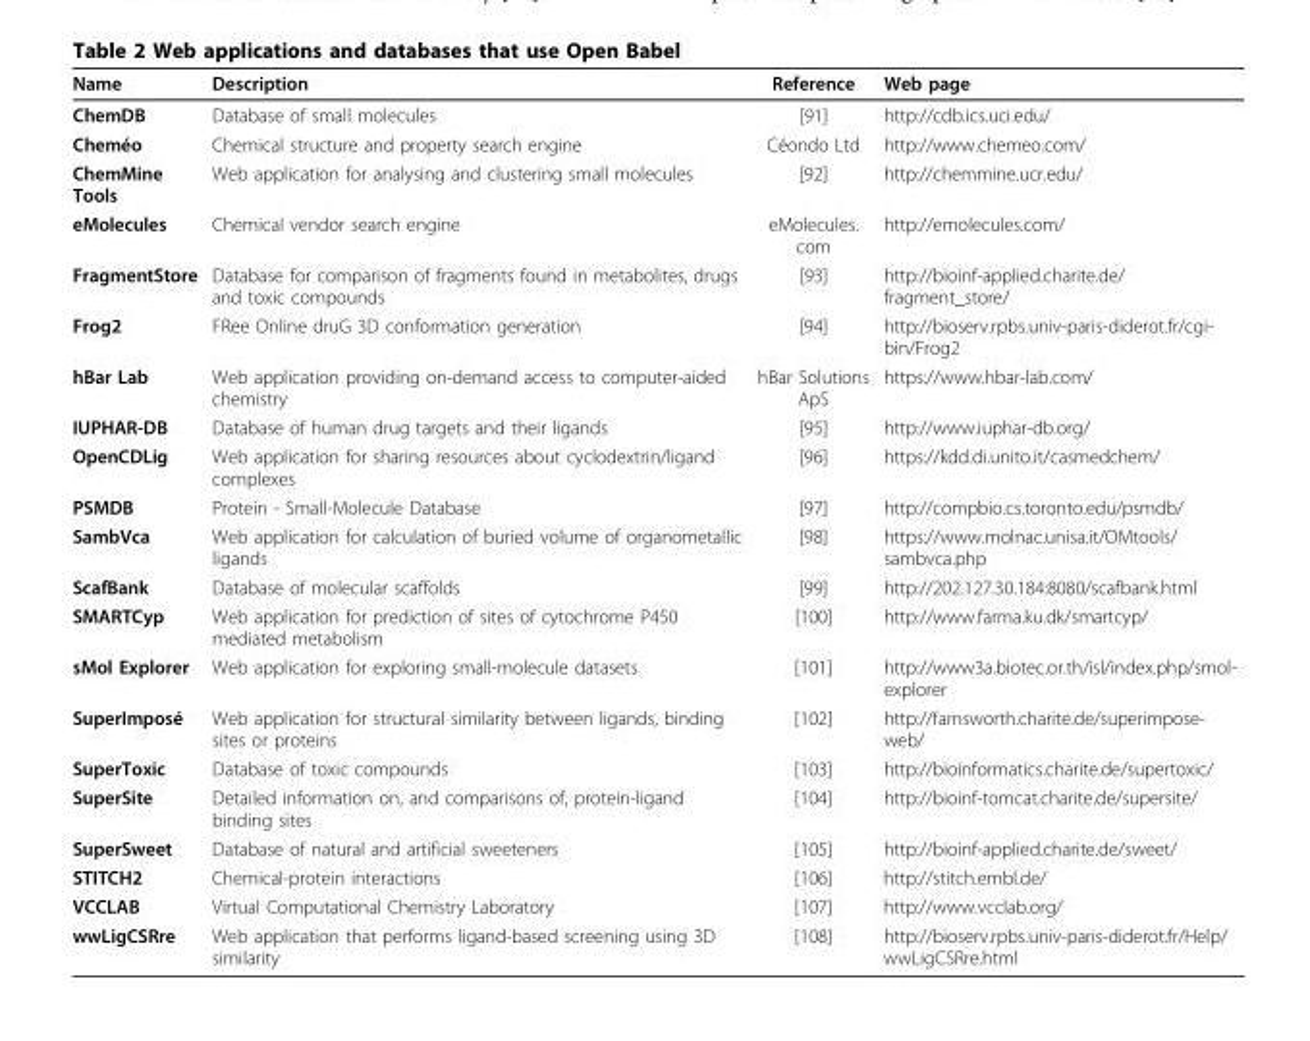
<table><thead><tr><td>Name</td><td>Description</td><td>Reference</td><td>Web page</td></tr></thead><tbody><tr><td>ChemDB</td><td>Database of small molecules</td><td>[91]</td><td>http://cdb.ics.uci.edu/</td></tr><tr><td>Cheméo</td><td>Chemical structure and property search engine</td><td>Céondo Ltd</td><td>http://www.chemeo.com/</td></tr><tr><td>ChemMine Tools</td><td>Web application for analysing and clustering small molecules</td><td>[92]</td><td>http://chemmine.ucr.edu/</td></tr><tr><td>eMolecules</td><td>Chemical vendor search engine</td><td>eMolecules. com</td><td>http://emolecules.com/</td></tr><tr><td>FragmentStore</td><td>Database for comparison of fragments found in metabolites, drugs and toxic compounds</td><td>[93]</td><td>http://bioinf-applied.charite.de/ fragment_store/</td></tr><tr><td>Frog2</td><td>FRee Online druG 3D conformation generation</td><td>[94]</td><td>http://bioserv.rpbs.univ-paris-diderot.fr/cgi- bin/Frog2</td></tr><tr><td>hBar Lab</td><td>Web application providing on-demand access to computer-aided chemistry</td><td>hBar Solutions ApS</td><td>https://www.hbar-lab.com/</td></tr><tr><td>IUPHAR-DB</td><td>Database of human drug targets and their ligands</td><td>[95]</td><td>http://www.iuphar-db.org/</td></tr><tr><td>OpenCDLig</td><td>Web application for sharing resources about cyclodextrin/ligand complexes</td><td>[96]</td><td>https://kdd.di.unito.it/casmedchem/</td></tr><tr><td>PSMDB</td><td>Protein - Small-Molecule Database</td><td>[97]</td><td>http://compbio.cs.toronto.edu/psmdb/</td></tr><tr><td>SambVca</td><td>Web application for calculation of buried volume of organometallic ligands</td><td>[98]</td><td>https://www.molnac.unisa.it/OMtools/ sambvca.php</td></tr><tr><td>ScafBank</td><td>Database of molecular scaffolds</td><td>[99]</td><td>http://202.127.30.184:8080/scafbank.html</td></tr><tr><td>SMARTCyp</td><td>Web application for prediction of sites of cytochrome P450 mediated metabolism</td><td>[100]</td><td>http://www.farma.ku.dk/smartcyp/</td></tr><tr><td>sMol Explorer</td><td>Web application for exploring small-molecule datasets</td><td>[101]</td><td>http://www3a.biotec.or.th/isl/index.php/smol- explorer</td></tr><tr><td>SuperImposé</td><td>Web application for structural similarity between ligands, binding sites or proteins</td><td>[102]</td><td>http://farnsworth.charite.de/superimpose- web/</td></tr><tr><td>SuperToxic</td><td>Database of toxic compounds</td><td>[103]</td><td>http://bioinformatics.charite.de/supertoxic/</td></tr><tr><td>SuperSite</td><td>Detailed information on, and comparisons of, protein-ligand binding sites</td><td>[104]</td><td>http://bioinf-tomcat.charite.de/supersite/</td></tr><tr><td>SuperSweet</td><td>Database of natural and artificial sweeteners</td><td>[105]</td><td>http://bioinf-applied.charite.de/sweet/</td></tr><tr><td>STITCH2</td><td>Chemical-protein interactions</td><td>[106]</td><td>http://stitch.embl.de/</td></tr><tr><td>VCCLAB</td><td>Virtual Computational Chemistry Laboratory</td><td>[107]</td><td>http://www.vcclab.org/</td></tr><tr><td>wwLigCSRre</td><td>Web application that performs ligand-based screening using 3D similarity</td><td>[108]</td><td>http://bioserv.rpbs.univ-paris-diderot.fr/Help/ wwLigCSRre.html</td></tr></tbody></table>